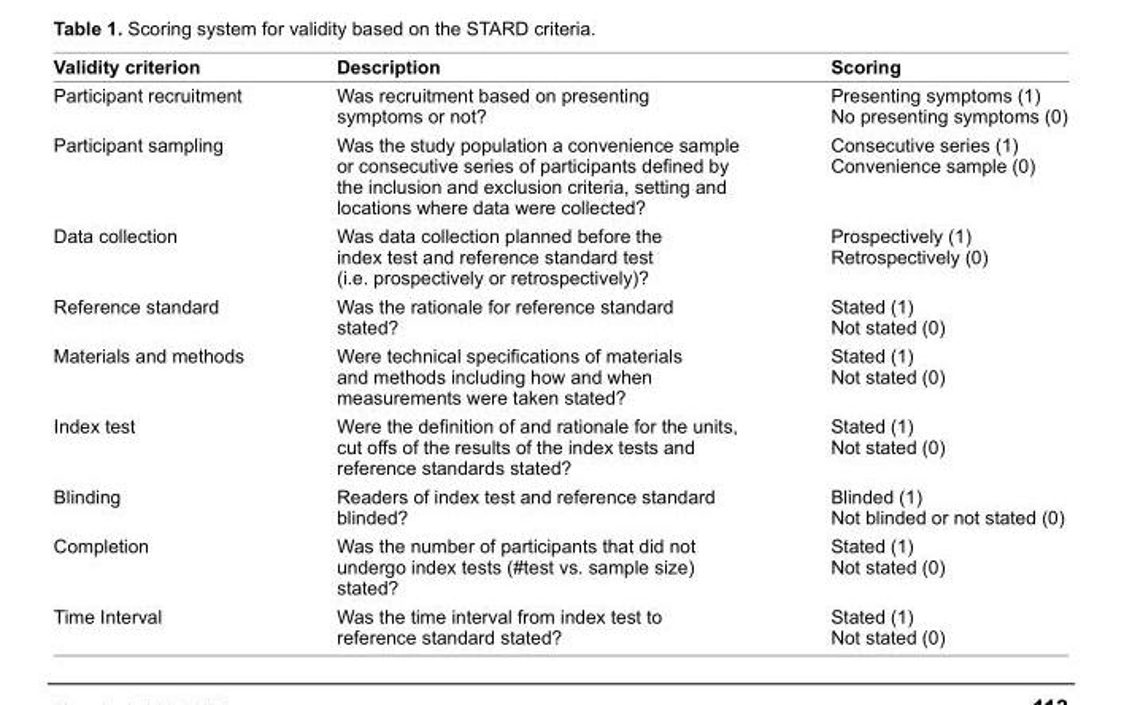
<table><thead><tr><td>Validity criterion</td><td>Description</td><td>scoring</td></tr></thead><tbody><tr><td>Participant recruitment</td><td>was recruitment based on presenting symptoms or not?</td><td>Presenting symptoms (1) No presenting symptoms (0)</td></tr><tr><td>Participant sampling</td><td>was the study population a convenience sample or consecutive series of participants defined by the inclusion and exclusion criteria, setting and locations where data were collected?</td><td>Consecutive series (1) Convenience sample (0)</td></tr><tr><td>Data collection</td><td>was data collection planned before the index test and reference standard test (i.e. prospectively or retrospectively)?</td><td>Prospectively (1) Retrospectively (0)</td></tr><tr><td>Reference standard</td><td>was the rationale for reference standard stated?</td><td>Stated (1) Not stated (0)</td></tr><tr><td>Materials and methods</td><td>Were technical specifications of materials and methods including how and when measurements were taken stated?</td><td>Stated (1) Not stated (0)</td></tr><tr><td>Index test</td><td>Were the definition of and rationale for the units, cut offs of the results of the index tests and reference standards stated?</td><td>Stated (1) Not stated (0)</td></tr><tr><td>Blinding</td><td>Readers of index test and reference standard blinded?</td><td>Blinded (1) Not blinded or not stated (0)</td></tr><tr><td>Completion</td><td>was the number of participants that did not undergo index tests (#test vs. sample size) stated?</td><td>Stated (1) Not stated (0)</td></tr><tr><td>Time Interval</td><td>was the time interval from index test to reference standard stated?</td><td>Stated (1) Not stated (0)</td></tr></tbody></table>